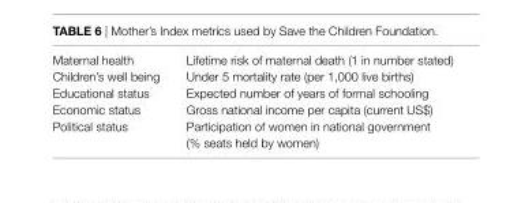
<table><tbody><tr><td>Maternal health</td><td>Lifetime risk of maternal death (1 in number stated)</td></tr><tr><td>Children’s well being</td><td>Under 5 mortality rate (per 1,000 live births)</td></tr><tr><td>Educational status</td><td>Expected number of years of formal schooling</td></tr><tr><td>Economic status</td><td>Gross national income per capita (current US$)</td></tr><tr><td>Political status</td><td>Participation of women in national government (% seats held by women)</td></tr></tbody></table>